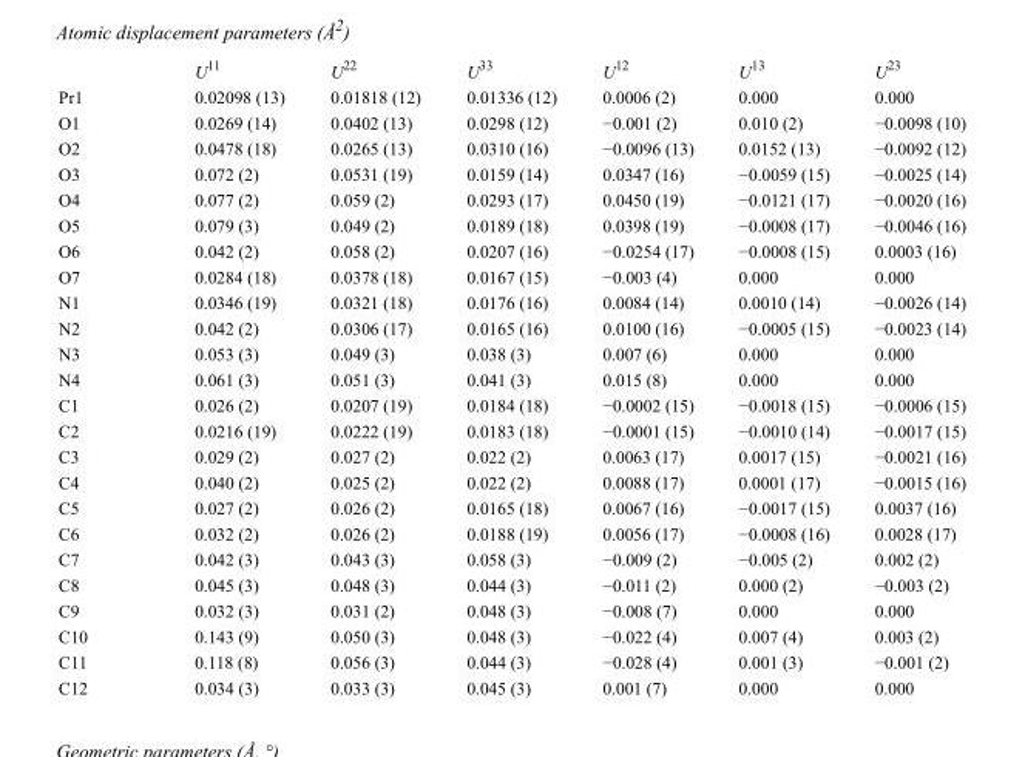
<table><thead><tr><td></td><td>U<sup>11</sup></td><td>U<sup>22</sup></td><td>U<sup>33</sup></td><td>U<sup>12</sup></td><td>U<sup>13</sup></td><td>U<sup>23</sup></td></tr></thead><tbody><tr><td>Pr1</td><td>0.02098 (13)</td><td>0.01818 (12)</td><td>0.01336 (12)</td><td>0.0006 (2)</td><td>0.000</td><td>0.000</td></tr><tr><td>O1</td><td>0.0269 (14)</td><td>0.0402 (13)</td><td>0.0298 (12)</td><td>−0.001 (2)</td><td>0.010 (2)</td><td>−0.0098 (10)</td></tr><tr><td>O2</td><td>0.0478 (18)</td><td>0.0265 (13)</td><td>0.0310 (16)</td><td>−0.0096 (13)</td><td>0.0152 (13)</td><td>−0.0092 (12)</td></tr><tr><td>O3</td><td>0.072 (2)</td><td>0.0531 (19)</td><td>0.0159 (14)</td><td>0.0347 (16)</td><td>−0.0059 (15)</td><td>−0.0025 (14)</td></tr><tr><td>O4</td><td>0.077 (2)</td><td>0.059 (2)</td><td>0.0293 (17)</td><td>0.0450 (19)</td><td>−0.0121 (17)</td><td>−0.0020 (16)</td></tr><tr><td>O5</td><td>0.079 (3)</td><td>0.049 (2)</td><td>0.0189 (18)</td><td>0.0398 (19)</td><td>−0.0008 (17)</td><td>−0.0046 (16)</td></tr><tr><td>O6</td><td>0.042 (2)</td><td>0.058 (2)</td><td>0.0207 (16)</td><td>−0.0254 (17)</td><td>−0.0008 (15)</td><td>0.0003 (16)</td></tr><tr><td>O7</td><td>0.0284 (18)</td><td>0.0378 (18)</td><td>0.0167 (15)</td><td>−0.003 (4)</td><td>0.000</td><td>0.000</td></tr><tr><td>N1</td><td>0.0346 (19)</td><td>0.0321 (18)</td><td>0.0176 (16)</td><td>0.0084 (14)</td><td>0.0010 (14)</td><td>−0.0026 (14)</td></tr><tr><td>N2</td><td>0.042 (2)</td><td>0.0306 (17)</td><td>0.0165 (16)</td><td>0.0100 (16)</td><td>−0.0005 (15)</td><td>−0.0023 (14)</td></tr><tr><td>N3</td><td>0.053 (3)</td><td>0.049 (3)</td><td>0.038 (3)</td><td>0.007 (6)</td><td>0.000</td><td>0.000</td></tr><tr><td>N4</td><td>0.061 (3)</td><td>0.051 (3)</td><td>0.041 (3)</td><td>0.015 (8)</td><td>0.000</td><td>0.000</td></tr><tr><td>C1</td><td>0.026 (2)</td><td>0.0207 (19)</td><td>0.0184 (18)</td><td>−0.0002 (15)</td><td>−0.0018 (15)</td><td>−0.0006 (15)</td></tr><tr><td>C2</td><td>0.0216 (19)</td><td>0.0222 (19)</td><td>0.0183 (18)</td><td>−0.0001 (15)</td><td>−0.0010 (14)</td><td>−0.0017 (15)</td></tr><tr><td>C3</td><td>0.029 (2)</td><td>0.027 (2)</td><td>0.022 (2)</td><td>0.0063 (17)</td><td>0.0017 (15)</td><td>−0.0021 (16)</td></tr><tr><td>C4</td><td>0.040 (2)</td><td>0.025 (2)</td><td>0.022 (2)</td><td>0.0088 (17)</td><td>0.0001 (17)</td><td>−0.0015 (16)</td></tr><tr><td>C5</td><td>0.027 (2)</td><td>0.026 (2)</td><td>0.0165 (18)</td><td>0.0067 (16)</td><td>−0.0017 (15)</td><td>0.0037 (16)</td></tr><tr><td>C6</td><td>0.032 (2)</td><td>0.026 (2)</td><td>0.0188 (19)</td><td>0.0056 (17)</td><td>−0.0008 (16)</td><td>0.0028 (17)</td></tr><tr><td>C7</td><td>0.042 (3)</td><td>0.043 (3)</td><td>0.058 (3)</td><td>−0.009 (2)</td><td>−0.005 (2)</td><td>0.002 (2)</td></tr><tr><td>C8</td><td>0.045 (3)</td><td>0.048 (3)</td><td>0.044 (3)</td><td>−0.011 (2)</td><td>0.000 (2)</td><td>−0.003 (2)</td></tr><tr><td>C9</td><td>0.032 (3)</td><td>0.031 (2)</td><td>0.048 (3)</td><td>−0.008 (7)</td><td>0.000</td><td>0.000</td></tr><tr><td>C10</td><td>0.143 (9)</td><td>0.050 (3)</td><td>0.048 (3)</td><td>−0.022 (4)</td><td>0.007 (4)</td><td>0.003 (2)</td></tr><tr><td>C11</td><td>0.118 (8)</td><td>0.056 (3)</td><td>0.044 (3)</td><td>−0.028 (4)</td><td>0.001 (3)</td><td>−0.001 (2)</td></tr><tr><td>C12</td><td>0.034 (3)</td><td>0.033 (3)</td><td>0.045 (3)</td><td>0.001 (7)</td><td>0.000</td><td>0.000</td></tr></tbody></table>